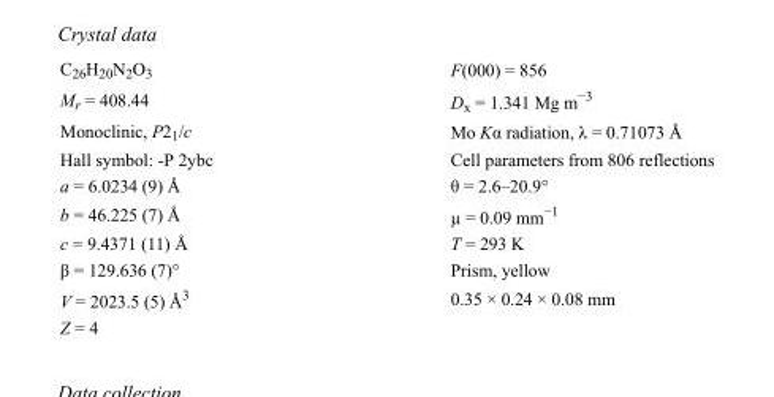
<table><tbody><tr><td>C<sub>26</sub>H<sub>20</sub>N<sub>2</sub>O<sub>3</sub></td><td>F(000) = 856</td></tr><tr><td>M<sub>r</sub> = 408.44</td><td>D<sub>x</sub> = 1.341 Mg m<sup>−3</sup></td></tr><tr><td>Monoclinic, P2<sub>1</sub>/c</td><td>Mo Kα radiation, λ = 0.71073 Å</td></tr><tr><td>Hall symbol: -P 2ybc</td><td>Cell parameters from 806 reflections</td></tr><tr><td>a = 6.0234 (9) Å</td><td>θ = 2.6–20.9°</td></tr><tr><td>b = 46.225 (7) Å</td><td>µ = 0.09 mm<sup>−1</sup></td></tr><tr><td>c = 9.4371 (11) Å</td><td>T = 293 K</td></tr><tr><td>β = 129.636 (7)°</td><td>Prism, yellow</td></tr><tr><td>V = 2023.5 (5) Å<sup>3</sup></td><td>0.35 × 0.24 × 0.08 mm</td></tr><tr><td>Z = 4</td><td></td></tr></tbody></table>